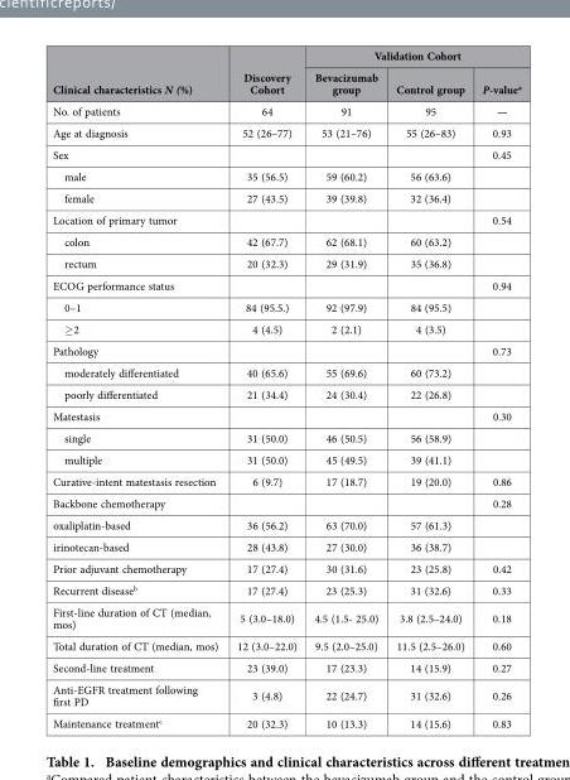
<table><thead><tr><td rowspan="2">Clinical characteristics N (%)</td><td rowspan="2">Discovery Cohort</td><td colspan="3">Validation Cohort</td></tr><tr><td>Bevacizumab group</td><td>Control group</td><td>P-value<sup>a</sup></td></tr></thead><tbody><tr><td>No. of patients</td><td>64</td><td>91</td><td>95</td><td>—</td></tr><tr><td>Age at diagnosis</td><td>52 (26–77)</td><td>53 (21–76)</td><td>55 (26–83)</td><td>0.93</td></tr><tr><td>Sex</td><td></td><td></td><td></td><td>0.45</td></tr><tr><td>male</td><td>35 (56.5)</td><td>59 (60.2)</td><td>56 (63.6)</td><td></td></tr><tr><td>female</td><td>27 (43.5)</td><td>39 (39.8)</td><td>32 (36.4)</td><td></td></tr><tr><td>Location of primary tumor</td><td></td><td></td><td></td><td>0.54</td></tr><tr><td>colon</td><td>42 (67.7)</td><td>62 (68.1)</td><td>60 (63.2)</td><td></td></tr><tr><td>rectum</td><td>20 (32.3)</td><td>29 (31.9)</td><td>35 (36.8)</td><td></td></tr><tr><td>ECOG performance status</td><td></td><td></td><td></td><td>0.94</td></tr><tr><td>0–1</td><td>84 (95.5.)</td><td>92 (97.9)</td><td>84 (95.5)</td><td></td></tr><tr><td>≥ 2</td><td>4 (4.5)</td><td>2 (2.1)</td><td>4 (3.5)</td><td></td></tr><tr><td>Pathology</td><td></td><td></td><td></td><td>0.73</td></tr><tr><td>moderately differentiated</td><td>40 (65.6)</td><td>55 (69.6)</td><td>60 (73.2)</td><td></td></tr><tr><td>poorly differentiated</td><td>21 (34.4)</td><td>24 (30.4)</td><td>22 (26.8)</td><td></td></tr><tr><td>Matestasis</td><td></td><td></td><td></td><td>0.30</td></tr><tr><td>single</td><td>31 (50.0)</td><td>46 (50.5)</td><td>56 (58.9)</td><td></td></tr><tr><td>multiple</td><td>31 (50.0)</td><td>45 (49.5)</td><td>39 (41.1)</td><td></td></tr><tr><td>Curative-intent matestasis resection</td><td>6 (9.7)</td><td>17 (18.7)</td><td>19 (20.0)</td><td>0.86</td></tr><tr><td>Backbone chemotherapy</td><td></td><td></td><td></td><td>0.28</td></tr><tr><td>oxaliplatin-based</td><td>36 (56.2)</td><td>63 (70.0)</td><td>57 (61.3)</td><td></td></tr><tr><td>irinotecan-based</td><td>28 (43.8)</td><td>27 (30.0)</td><td>36 (38.7)</td><td></td></tr><tr><td>Prior adjuvant chemotherapy</td><td>17 (27.4)</td><td>30 (31.6)</td><td>23 (25.8)</td><td>0.42</td></tr><tr><td>Recurrent disease<sup>b</sup></td><td>17 (27.4)</td><td>23 (25.3)</td><td>31 (32.6)</td><td>0.33</td></tr><tr><td>First-line duration of CT (median, mos)</td><td>5 (3.0–18.0)</td><td>4.5 (1.5- 25.0)</td><td>3.8 (2.5–24.0)</td><td>0.18</td></tr><tr><td>Total duration of CT (median, mos)</td><td>12 (3.0–22.0)</td><td>9.5 (2.0–25.0)</td><td>11.5 (2.5–26.0)</td><td>0.60</td></tr><tr><td>Second-line treatment</td><td>23 (39.0)</td><td>17 (23.3)</td><td>14 (15.9)</td><td>0.27</td></tr><tr><td>Anti-EGFR treatment following first PD</td><td>3 (4.8)</td><td>22 (24.7)</td><td>31 (32.6)</td><td>0.26</td></tr><tr><td>Maintenance treatment<sup>c</sup></td><td>20 (32.3)</td><td>10 (13.3)</td><td>14 (15.6)</td><td>0.83</td></tr></tbody></table>